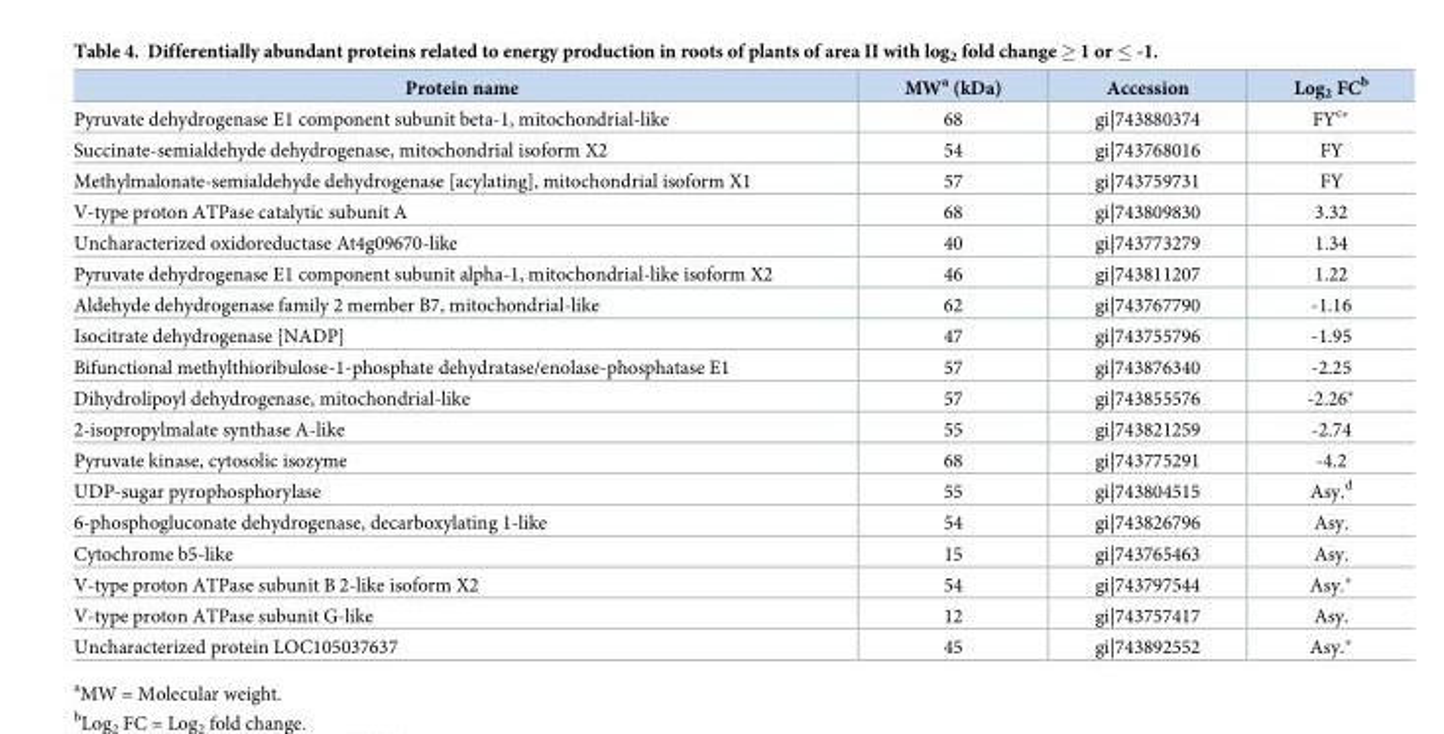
<table><thead><tr><td>Protein name</td><td>MW<sup>a</sup> (kDa)</td><td>Accession</td><td>Log<sub>2</sub> FC<sup>b</sup></td></tr></thead><tbody><tr><td>Pyruvate dehydrogenase E1 component subunit beta-1, mitochondrial-like</td><td>68</td><td>gi|743880374</td><td>FY<sup>c</sup>*</td></tr><tr><td>Succinate-semialdehyde dehydrogenase, mitochondrial isoform X2</td><td>54</td><td>gi|743768016</td><td>FY</td></tr><tr><td>Methylmalonate-semialdehyde dehydrogenase [acylating], mitochondrial isoform X1</td><td>57</td><td>gi|743759731</td><td>FY</td></tr><tr><td>V-type proton ATPase catalytic subunit A</td><td>68</td><td>gi|743809830</td><td>3.32</td></tr><tr><td>Uncharacterized oxidoreductase At4g09670-like</td><td>40</td><td>gi|743773279</td><td>1.34</td></tr><tr><td>Pyruvate dehydrogenase E1 component subunit alpha-1, mitochondrial-like isoform X2</td><td>46</td><td>gi|743811207</td><td>1.22</td></tr><tr><td>Aldehyde dehydrogenase family 2 member B7, mitochondrial-like</td><td>62</td><td>gi|743767790</td><td>-1.16</td></tr><tr><td>Isocitrate dehydrogenase [NADP]</td><td>47</td><td>gi|743755796</td><td>-1.95</td></tr><tr><td>Bifunctional methylthioribulose-1-phosphate dehydratase/enolase-phosphatase E1</td><td>57</td><td>gi|743876340</td><td>-2.25</td></tr><tr><td>Dihydrolipoyl dehydrogenase, mitochondrial-like</td><td>57</td><td>gi|743855576</td><td>-2.26*</td></tr><tr><td>2-isopropylmalate synthase A-like</td><td>55</td><td>gi|743821259</td><td>-2.74</td></tr><tr><td>Pyruvate kinase, cytosolic isozyme</td><td>68</td><td>gi|743775291</td><td>-4.2</td></tr><tr><td>UDP-sugar pyrophosphorylase</td><td>55</td><td>gi|743804515</td><td>Asy.<sup>d</sup></td></tr><tr><td>6-phosphogluconate dehydrogenase, decarboxylating 1-like</td><td>54</td><td>gi|743826796</td><td>Asy.</td></tr><tr><td>Cytochrome b5-like</td><td>15</td><td>gi|743765463</td><td>Asy.</td></tr><tr><td>V-type proton ATPase subunit B 2-like isoform X2</td><td>54</td><td>gi|743797544</td><td>Asy.*</td></tr><tr><td>V-type proton ATPase subunit G-like</td><td>12</td><td>gi|743757417</td><td>Asy.</td></tr><tr><td>Uncharacterized protein LOC105037637</td><td>45</td><td>gi|743892552</td><td>Asy.*</td></tr></tbody></table>